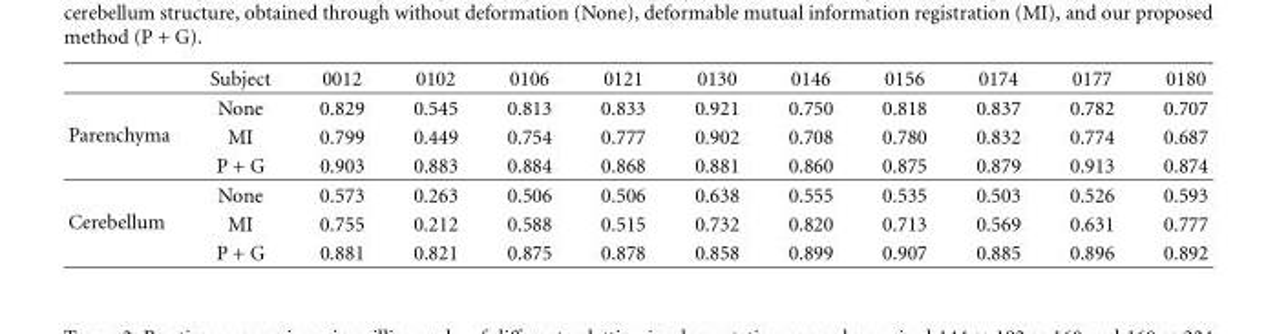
<table><thead><tr><td></td><td>Subject</td><td>0012</td><td>0102</td><td>0106</td><td>0121</td><td>0130</td><td>0146</td><td>0156</td><td>0174</td><td>0177</td><td>0180</td></tr></thead><tbody><tr><td rowspan="3">Parenchyma</td><td>None</td><td>0.829</td><td>0.545</td><td>0.813</td><td>0.833</td><td>0.921</td><td>0.750</td><td>0.818</td><td>0.837</td><td>0.782</td><td>0.707</td></tr><tr><td>MI</td><td>0.799</td><td>0.449</td><td>0.754</td><td>0.777</td><td>0.902</td><td>0.708</td><td>0.780</td><td>0.832</td><td>0.774</td><td>0.687</td></tr><tr><td>P + G</td><td>0.903</td><td>0.883</td><td>0.884</td><td>0.868</td><td>0.881</td><td>0.860</td><td>0.875</td><td>0.879</td><td>0.913</td><td>0.874</td></tr><tr><td rowspan="3">Cerebellum</td><td>None</td><td>0.573</td><td>0.263</td><td>0.506</td><td>0.506</td><td>0.638</td><td>0.555</td><td>0.535</td><td>0.503</td><td>0.526</td><td>0.593</td></tr><tr><td>MI</td><td>0.755</td><td>0.212</td><td>0.588</td><td>0.515</td><td>0.732</td><td>0.820</td><td>0.713</td><td>0.569</td><td>0.631</td><td>0.777</td></tr><tr><td>P + G</td><td>0.881</td><td>0.821</td><td>0.875</td><td>0.878</td><td>0.858</td><td>0.899</td><td>0.907</td><td>0.885</td><td>0.896</td><td>0.892</td></tr></tbody></table>